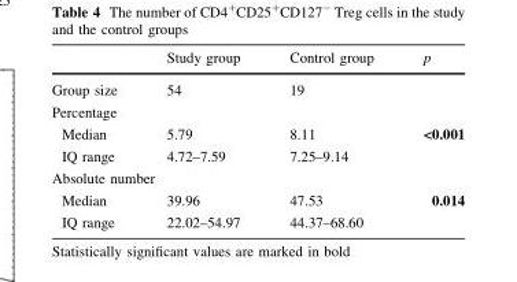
<table><thead><tr><td></td><td>Study group</td><td>Control group</td><td>p</td></tr></thead><tbody><tr><td>Group size</td><td>54</td><td>19</td><td></td></tr><tr><td colspan="4">Percentage</td></tr><tr><td>Median</td><td>5.79</td><td>8.11</td><td rowspan="2">&lt;0.001</td></tr><tr><td>IQ range</td><td>4.72–7.59</td><td>7.25–9.14</td></tr><tr><td colspan="4">Absolute number</td></tr><tr><td>Median</td><td>39.96</td><td>47.53</td><td rowspan="2">0.014</td></tr><tr><td>IQ range</td><td>22.02–54.97</td><td>44.37–68.60</td></tr></tbody></table>